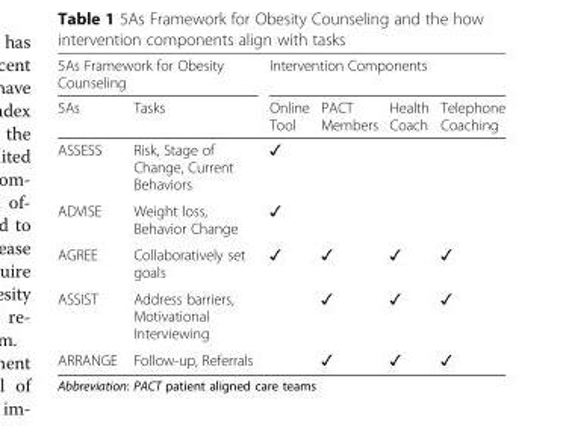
<table><thead><tr><td colspan="2">5As Framework for Obesity Counseling</td><td colspan="4">Intervention Components</td></tr><tr><td>5As</td><td>Tasks</td><td>Online Tool</td><td>PACT Members</td><td>Health Coach</td><td>Telephone Coaching</td></tr></thead><tbody><tr><td>ASSESS</td><td>Risk, Stage of Change, Current Behaviors</td><td>✓</td><td></td><td></td><td></td></tr><tr><td>ADVISE</td><td>Weight loss, Behavior Change</td><td>✓</td><td></td><td></td><td></td></tr><tr><td>AGREE</td><td>Collaboratively set goals</td><td>✓</td><td>✓</td><td>✓</td><td>✓</td></tr><tr><td>ASSIST</td><td>Address barriers, Motivational Interviewing</td><td></td><td>✓</td><td>✓</td><td>✓</td></tr><tr><td>ARRANGE</td><td>Follow-up, Referrals</td><td></td><td>✓</td><td>✓</td><td>✓</td></tr></tbody></table>